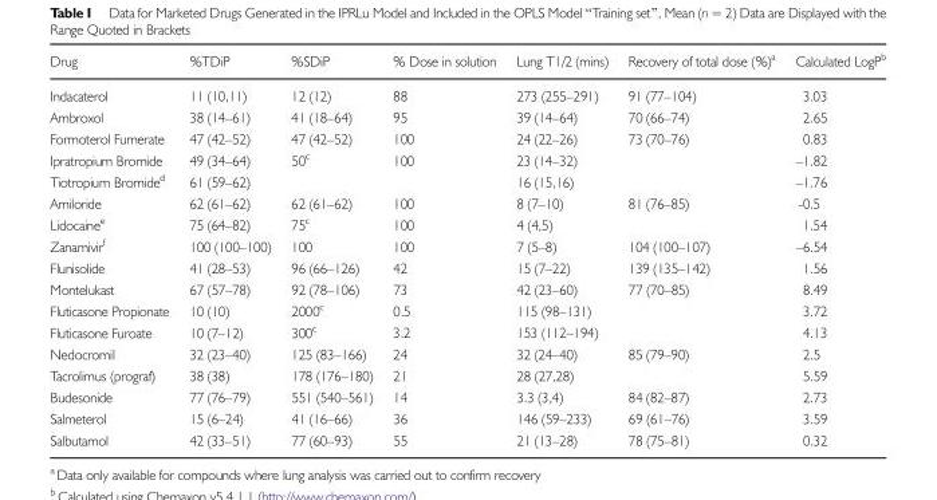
<table><thead><tr><td>Drug</td><td>%TDiP</td><td>%SDiP</td><td>% Dose in solution</td><td>Lung T1/2 (mins)</td><td>Recovery of total dose (%)<sup>a</sup></td><td>Calculated LogP<sup>b</sup></td></tr></thead><tbody><tr><td>Indacaterol</td><td>11 (10,11)</td><td>12 (12)</td><td>88</td><td>273 (255–291)</td><td>91 (77–104)</td><td>3.03</td></tr><tr><td>Ambroxol</td><td>38 (14–61)</td><td>41 (18–64)</td><td>95</td><td>39 (14–64)</td><td>70 (66–74)</td><td>2.65</td></tr><tr><td>Formoterol Fumerate</td><td>47 (42–52)</td><td>47 (42–52)</td><td>100</td><td>24 (22–26)</td><td>73 (70–76)</td><td>0.83</td></tr><tr><td>Ipratropium Bromide</td><td>49 (34–64)</td><td>50<sup>c</sup></td><td>100</td><td>23 (14–32)</td><td></td><td>–1.82</td></tr><tr><td>Tiotropium Bromide<sup>d</sup></td><td>61 (59–62)</td><td></td><td></td><td>16 (15,16)</td><td></td><td>–1.76</td></tr><tr><td>Amiloride</td><td>62 (61–62)</td><td>62 (61–62)</td><td>100</td><td>8 (7–10)</td><td>81 (76–85)</td><td>-0.5</td></tr><tr><td>Lidocaine<sup>e</sup></td><td>75 (64–82)</td><td>75<sup>c</sup></td><td>100</td><td>4 (4,5)</td><td></td><td>1.54</td></tr><tr><td>Zanamivir<sup>f</sup></td><td>100 (100–100)</td><td>100</td><td>100</td><td>7 (5–8)</td><td>104 (100–107)</td><td>–6.54</td></tr><tr><td>Flunisolide</td><td>41 (28–53)</td><td>96 (66–126)</td><td>42</td><td>15 (7–22)</td><td>139 (135–142)</td><td>1.56</td></tr><tr><td>Montelukast</td><td>67 (57–78)</td><td>92 (78–106)</td><td>73</td><td>42 (23–60)</td><td>77 (70–85)</td><td>8.49</td></tr><tr><td>Fluticasone Propionate</td><td>10 (10)</td><td>2000<sup>c</sup></td><td>0.5</td><td>115 (98–131)</td><td></td><td>3.72</td></tr><tr><td>Fluticasone Furoate</td><td>10 (7–12)</td><td>300<sup>c</sup></td><td>3.2</td><td>153 (112–194)</td><td></td><td>4.13</td></tr><tr><td>Nedocromil</td><td>32 (23–40)</td><td>125 (83–166)</td><td>24</td><td>32 (24–40)</td><td>85 (79–90)</td><td>2.5</td></tr><tr><td>Tacrolimus (prograf)</td><td>38 (38)</td><td>178 (176–180)</td><td>21</td><td>28 (27,28)</td><td></td><td>5.59</td></tr><tr><td>Budesonide</td><td>77 (76–79)</td><td>551 (540–561)</td><td>14</td><td>3.3 (3,4)</td><td>84 (82–87)</td><td>2.73</td></tr><tr><td>Salmeterol</td><td>15 (6–24)</td><td>41 (16–66)</td><td>36</td><td>146 (59–233)</td><td>69 (61–76)</td><td>3.59</td></tr><tr><td>Salbutamol</td><td>42 (33–51)</td><td>77 (60–93)</td><td>55</td><td>21 (13–28)</td><td>78 (75–81)</td><td>0.32</td></tr></tbody></table>